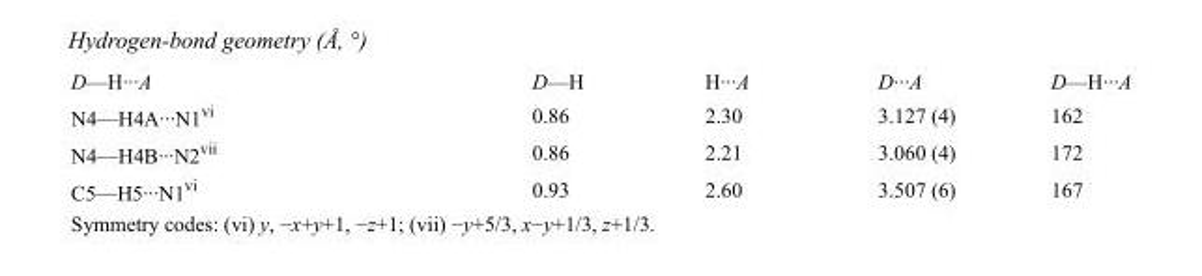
<table><tbody><tr><td>D—H···A</td><td>D—H</td><td>H···A</td><td>D···A</td><td>D—H···A</td></tr><tr><td>N4—H4A···N1<sup>vi</sup></td><td>0.86</td><td>2.30</td><td>3.127 (4)</td><td>162</td></tr><tr><td>N4—H4B···N2<sup>vii</sup></td><td>0.86</td><td>2.21</td><td>3.060 (4)</td><td>172</td></tr><tr><td>C5—H5···N1<sup>vi</sup></td><td>0.93</td><td>2.60</td><td>3.507 (6)</td><td>167</td></tr></tbody></table>